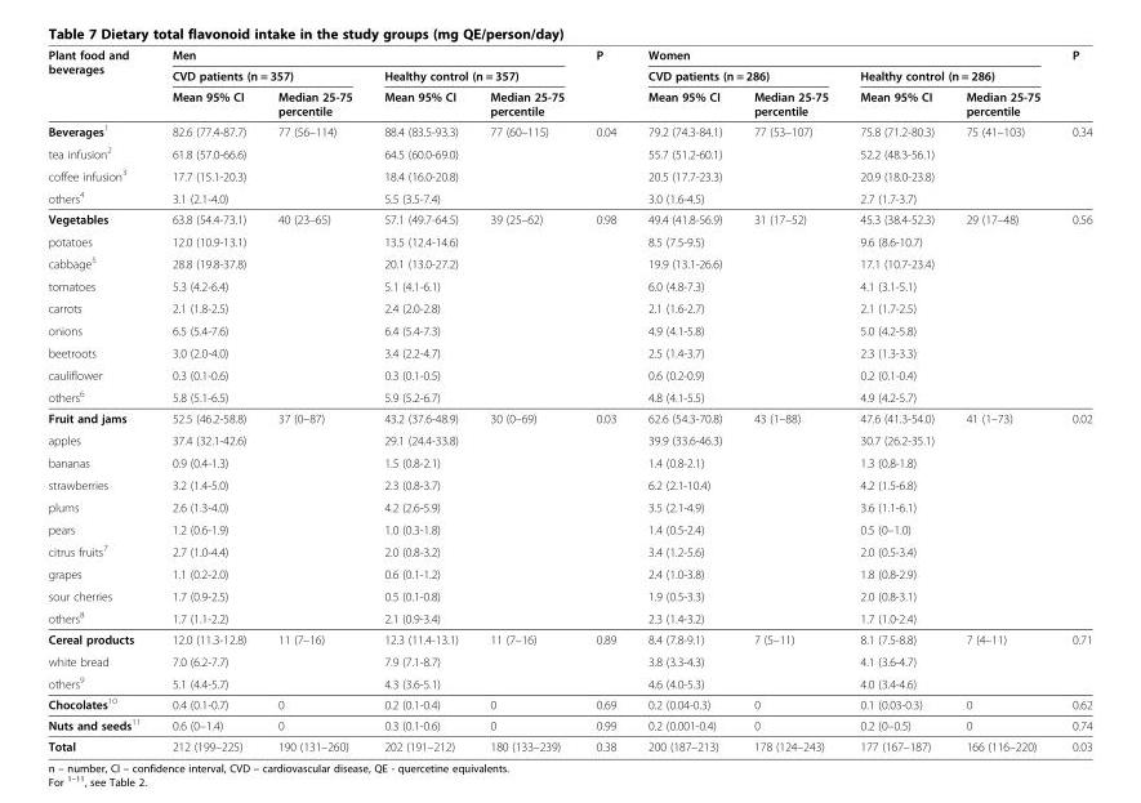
<table><thead><tr><td rowspan="3">Plant food and beverages</td><td colspan="4">Men</td><td rowspan="3">P</td><td colspan="4">Women</td><td rowspan="3">P</td></tr><tr><td colspan="2">CVD patients (n = 357)</td><td colspan="2">Healthy control (n = 357)</td><td colspan="2">CVD patients (n = 286)</td><td colspan="2">Healthy control (n = 286)</td></tr><tr><td>Mean 95% CI</td><td>Median 25-75 percentile</td><td>Mean 95% CI</td><td>Median 25-75 percentile</td><td>Mean 95% CI</td><td>Median 25-75 percentile</td><td>Mean 95% CI</td><td>Median 25-75 percentile</td></tr></thead><tbody><tr><td>Beverages<sup>1</sup></td><td>82.6 (77.4-87.7)</td><td>77 (56–114)</td><td>88.4 (83.5-93.3)</td><td>77 (60–115)</td><td>0.04</td><td>79.2 (74.3-84.1)</td><td>77 (53–107)</td><td>75.8 (71.2-80.3)</td><td>75 (41–103)</td><td>0.34</td></tr><tr><td>tea infusion<sup>2</sup></td><td>61.8 (57.0-66.6)</td><td></td><td>64.5 (60.0-69.0)</td><td></td><td></td><td>55.7 (51.2-60.1)</td><td></td><td>52.2 (48.3-56.1)</td><td></td><td></td></tr><tr><td>coffee infusion<sup>3</sup></td><td>17.7 (15.1-20.3)</td><td></td><td>18.4 (16.0-20.8)</td><td></td><td></td><td>20.5 (17.7-23.3)</td><td></td><td>20.9 (18.0-23.8)</td><td></td><td></td></tr><tr><td>others<sup>4</sup></td><td>3.1 (2.1-4.0)</td><td></td><td>5.5 (3.5-7.4)</td><td></td><td></td><td>3.0 (1.6-4.5)</td><td></td><td>2.7 (1.7-3.7)</td><td></td><td></td></tr><tr><td>Vegetables</td><td>63.8 (54.4-73.1)</td><td>40 (23–65)</td><td>57.1 (49.7-64.5)</td><td>39 (25–62)</td><td>0.98</td><td>49.4 (41.8-56.9)</td><td>31 (17–52)</td><td>45.3 (38.4-52.3)</td><td>29 (17–48)</td><td>0.56</td></tr><tr><td>potatoes</td><td>12.0 (10.9-13.1)</td><td></td><td>13.5 (12.4-14.6)</td><td></td><td></td><td>8.5 (7.5-9.5)</td><td></td><td>9.6 (8.6-10.7)</td><td></td><td></td></tr><tr><td>cabbage<sup>5</sup></td><td>28.8 (19.8-37.8)</td><td></td><td>20.1 (13.0-27.2)</td><td></td><td></td><td>19.9 (13.1-26.6)</td><td></td><td>17.1 (10.7-23.4)</td><td></td><td></td></tr><tr><td>tomatoes</td><td>5.3 (4.2-6.4)</td><td></td><td>5.1 (4.1-6.1)</td><td></td><td></td><td>6.0 (4.8-7.3)</td><td></td><td>4.1 (3.1-5.1)</td><td></td><td></td></tr><tr><td>carrots</td><td>2.1 (1.8-2.5)</td><td></td><td>2.4 (2.0-2.8)</td><td></td><td></td><td>2.1 (1.6-2.7)</td><td></td><td>2.1 (1.7-2.5)</td><td></td><td></td></tr><tr><td>onions</td><td>6.5 (5.4-7.6)</td><td></td><td>6.4 (5.4-7.3)</td><td></td><td></td><td>4.9 (4.1-5.8)</td><td></td><td>5.0 (4.2-5.8)</td><td></td><td></td></tr><tr><td>beetroots</td><td>3.0 (2.0-4.0)</td><td></td><td>3.4 (2.2-4.7)</td><td></td><td></td><td>2.5 (1.4-3.7)</td><td></td><td>2.3 (1.3-3.3)</td><td></td><td></td></tr><tr><td>cauliflower</td><td>0.3 (0.1-0.6)</td><td></td><td>0.3 (0.1-0.5)</td><td></td><td></td><td>0.6 (0.2-0.9)</td><td></td><td>0.2 (0.1-0.4)</td><td></td><td></td></tr><tr><td>others<sup>6</sup></td><td>5.8 (5.1-6.5)</td><td></td><td>5.9 (5.2-6.7)</td><td></td><td></td><td>4.8 (4.1-5.5)</td><td></td><td>4.9 (4.2-5.7)</td><td></td><td></td></tr><tr><td>Fruit and jams</td><td>52.5 (46.2-58.8)</td><td>37 (0–87)</td><td>43.2 (37.6-48.9)</td><td>30 (0–69)</td><td>0.03</td><td>62.6 (54.3-70.8)</td><td>43 (1–88)</td><td>47.6 (41.3-54.0)</td><td>41 (1–73)</td><td>0.02</td></tr><tr><td>apples</td><td>37.4 (32.1-42.6)</td><td></td><td>29.1 (24.4-33.8)</td><td></td><td></td><td>39.9 (33.6-46.3)</td><td></td><td>30.7 (26.2-35.1)</td><td></td><td></td></tr><tr><td>bananas</td><td>0.9 (0.4-1.3)</td><td></td><td>1.5 (0.8-2.1)</td><td></td><td></td><td>1.4 (0.8-2.1)</td><td></td><td>1.3 (0.8-1.8)</td><td></td><td></td></tr><tr><td>strawberries</td><td>3.2 (1.4-5.0)</td><td></td><td>2.3 (0.8-3.7)</td><td></td><td></td><td>6.2 (2.1-10.4)</td><td></td><td>4.2 (1.5-6.8)</td><td></td><td></td></tr><tr><td>plums</td><td>2.6 (1.3-4.0)</td><td></td><td>4.2 (2.6-5.9)</td><td></td><td></td><td>3.5 (2.1-4.9)</td><td></td><td>3.6 (1.1-6.1)</td><td></td><td></td></tr><tr><td>pears</td><td>1.2 (0.6-1.9)</td><td></td><td>1.0 (0.3-1.8)</td><td></td><td></td><td>1.4 (0.5-2.4)</td><td></td><td>0.5 (0–1.0)</td><td></td><td></td></tr><tr><td>citrus fruits<sup>7</sup></td><td>2.7 (1.0-4.4)</td><td></td><td>2.0 (0.8-3.2)</td><td></td><td></td><td>3.4 (1.2-5.6)</td><td></td><td>2.0 (0.5-3.4)</td><td></td><td></td></tr><tr><td>grapes</td><td>1.1 (0.2-2.0)</td><td></td><td>0.6 (0.1-1.2)</td><td></td><td></td><td>2.4 (1.0-3.8)</td><td></td><td>1.8 (0.8-2.9)</td><td></td><td></td></tr><tr><td>sour cherries</td><td>1.7 (0.9-2.5)</td><td></td><td>0.5 (0.1-0.8)</td><td></td><td></td><td>1.9 (0.5-3.3)</td><td></td><td>2.0 (0.8-3.1)</td><td></td><td></td></tr><tr><td>others<sup>8</sup></td><td>1.7 (1.1-2.2)</td><td></td><td>2.1 (0.9-3.4)</td><td></td><td></td><td>2.3 (1.4-3.2)</td><td></td><td>1.7 (1.0-2.4)</td><td></td><td></td></tr><tr><td>Cereal products</td><td>12.0 (11.3-12.8)</td><td>11 (7–16)</td><td>12.3 (11.4-13.1)</td><td>11 (7–16)</td><td>0.89</td><td>8.4 (7.8-9.1)</td><td>7 (5–11)</td><td>8.1 (7.5-8.8)</td><td>7 (4–11)</td><td>0.71</td></tr><tr><td>white bread</td><td>7.0 (6.2-7.7)</td><td></td><td>7.9 (7.1-8.7)</td><td></td><td></td><td>3.8 (3.3-4.3)</td><td></td><td>4.1 (3.6-4.7)</td><td></td><td></td></tr><tr><td>others<sup>9</sup></td><td>5.1 (4.4-5.7)</td><td></td><td>4.3 (3.6-5.1)</td><td></td><td></td><td>4.6 (4.0-5.3)</td><td></td><td>4.0 (3.4-4.6)</td><td></td><td></td></tr><tr><td>Chocolates<sup>10</sup></td><td>0.4 (0.1-0.7)</td><td>0</td><td>0.2 (0.1-0.4)</td><td>0</td><td>0.69</td><td>0.2 (0.04-0.3)</td><td>0</td><td>0.1 (0.03-0.3)</td><td>0</td><td>0.62</td></tr><tr><td>Nuts and seeds<sup>11</sup></td><td>0.6 (0–1.4)</td><td>0</td><td>0.3 (0.1-0.6)</td><td>0</td><td>0.99</td><td>0.2 (0.001-0.4)</td><td>0</td><td>0.2 (0–0.5)</td><td>0</td><td>0.74</td></tr><tr><td>Total</td><td>212 (199–225)</td><td>190 (131–260)</td><td>202 (191–212)</td><td>180 (133–239)</td><td>0.38</td><td>200 (187–213)</td><td>178 (124–243)</td><td>177 (167–187)</td><td>166 (116–220)</td><td>0.03</td></tr></tbody></table>